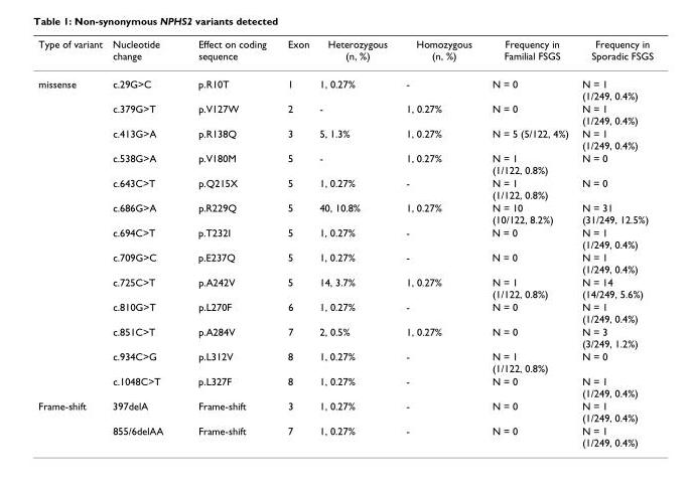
<table><thead><tr><td>Type of variant</td><td>Nucleotide change</td><td>Effect on coding sequence</td><td>Exon</td><td>Heterozygous (n, %)</td><td>Homozygous (n, %)</td><td>Frequency in Familial FSGS</td><td>Frequency in Sporadic FSGS</td></tr></thead><tbody><tr><td rowspan="13">missense</td><td>c.29G&gt;C</td><td>p.R10T</td><td>1</td><td>1, 0.27%</td><td>-</td><td>N = 0</td><td>N = 1 (1/249, 0.4%)</td></tr><tr><td>c.379G&gt;T</td><td>p.V127W</td><td>2</td><td>-</td><td>1, 0.27%</td><td>N = 0</td><td>N = 1 (1/249, 0.4%)</td></tr><tr><td>c.413G&gt;A</td><td>p.R138Q</td><td>3</td><td>5, 1.3%</td><td>1, 0.27%</td><td>N = 5 (5/122, 4%)</td><td>N = 1 (1/249, 0.4%)</td></tr><tr><td>c.538G&gt;A</td><td>p.V180M</td><td>5</td><td>-</td><td>1, 0.27%</td><td>N = 1 (1/122, 0.8%)</td><td>N = 0</td></tr><tr><td>c.643C&gt;T</td><td>p.Q215X</td><td>5</td><td>1, 0.27%</td><td>-</td><td>N = 1 (1/122, 0.8%)</td><td>N = 0</td></tr><tr><td>c.686G&gt;A</td><td>p.R229Q</td><td>5</td><td>40, 10.8%</td><td>1, 0.27%</td><td>N = 10 (10/122, 8.2%)</td><td>N = 31 (31/249, 12.5%)</td></tr><tr><td>c.694C&gt;T</td><td>p.T232I</td><td>5</td><td>1, 0.27%</td><td>-</td><td>N = 0</td><td>N = 1 (1/249, 0.4%)</td></tr><tr><td>c.709G&gt;C</td><td>p.E237Q</td><td>5</td><td>1, 0.27%</td><td>-</td><td>N = 0</td><td>N = 1 (1/249, 0.4%)</td></tr><tr><td>c.725C&gt;T</td><td>p.A242V</td><td>5</td><td>14, 3.7%</td><td>1, 0.27%</td><td>N = 1 (1/122, 0.8%)</td><td>N = 14 (14/249, 5.6%)</td></tr><tr><td>c.810G&gt;T</td><td>p.L270F</td><td>6</td><td>1, 0.27%</td><td>-</td><td>N = 0</td><td>N = 1 (1/249, 0.4%)</td></tr><tr><td>c.851C&gt;T</td><td>p.A284V</td><td>7</td><td>2, 0.5%</td><td>1, 0.27%</td><td>N = 0</td><td>N = 3 (3/249, 1.2%)</td></tr><tr><td>c.934C&gt;G</td><td>p.L312V</td><td>8</td><td>1, 0.27%</td><td>-</td><td>N = 1 (1/122, 0.8%)</td><td>N = 0</td></tr><tr><td>c.1048C&gt;T</td><td>p.L327F</td><td>8</td><td>1, 0.27%</td><td>-</td><td>N = 0</td><td>N = 1 (1/249, 0.4%)</td></tr><tr><td rowspan="2">Frame-shift</td><td>397delA</td><td>Frame-shift</td><td>3</td><td>1, 0.27%</td><td>-</td><td>N = 0</td><td>N = 1 (1/249, 0.4%)</td></tr><tr><td>855/6delAA</td><td>Frame-shift</td><td>7</td><td>1, 0.27%</td><td>-</td><td>N = 0</td><td>N = 1 (1/249, 0.4%)</td></tr></tbody></table>